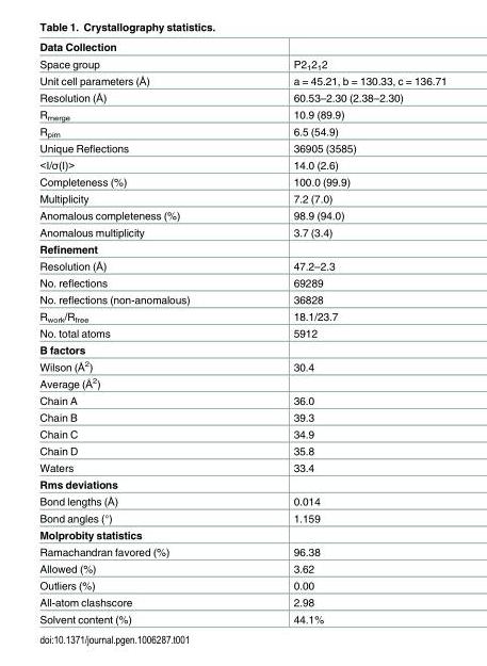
<table><thead><tr><td>Data Collection</td><td></td></tr></thead><tbody><tr><td>Space group</td><td>P2<sub>1</sub>2<sub>1</sub>2</td></tr><tr><td>Unit cell parameters (Å)</td><td>a = 45.21, b = 130.33, c = 136.71</td></tr><tr><td>Resolution (Å)</td><td>60.53–2.30 (2.38–2.30)</td></tr><tr><td>R<sub>merge</sub></td><td>10.9 (89.9)</td></tr><tr><td>R<sub>pim</sub></td><td>6.5 (54.9)</td></tr><tr><td>Unique Reflections</td><td>36905 (3585)</td></tr><tr><td>&lt;I/σ(I)&gt;</td><td>14.0 (2.6)</td></tr><tr><td>Completeness (%)</td><td>100.0 (99.9)</td></tr><tr><td>Multiplicity</td><td>7.2 (7.0)</td></tr><tr><td>Anomalous completeness (%)</td><td>98.9 (94.0)</td></tr><tr><td>Anomalous multiplicity</td><td>3.7 (3.4)</td></tr><tr><td colspan="2">Refinement</td></tr><tr><td>Resolution (Å)</td><td>47.2–2.3</td></tr><tr><td>No. reflections</td><td>69289</td></tr><tr><td>No. reflections (non-anomalous)</td><td>36828</td></tr><tr><td>R<sub>work</sub>/R<sub>free</sub></td><td>18.1/23.7</td></tr><tr><td>No. total atoms</td><td>5912</td></tr><tr><td colspan="2">B factors</td></tr><tr><td>Wilson (Å<sup>2</sup>)</td><td>30.4</td></tr><tr><td colspan="2">Average (Å<sup>2</sup>)</td></tr><tr><td>Chain A</td><td>36.0</td></tr><tr><td>Chain B</td><td>39.3</td></tr><tr><td>Chain C</td><td>34.9</td></tr><tr><td>Chain D</td><td>35.8</td></tr><tr><td>Waters</td><td>33.4</td></tr><tr><td colspan="2">Rms deviations</td></tr><tr><td>Bond lengths (Å)</td><td>0.014</td></tr><tr><td>Bond angles (°)</td><td>1.159</td></tr><tr><td colspan="2">Molprobity statistics</td></tr><tr><td>Ramachandran favored (%)</td><td>96.38</td></tr><tr><td>Allowed (%)</td><td>3.62</td></tr><tr><td>Outliers (%)</td><td>0.00</td></tr><tr><td>All-atom clashscore</td><td>2.98</td></tr><tr><td>Solvent content (%)</td><td>44.1%</td></tr></tbody></table>